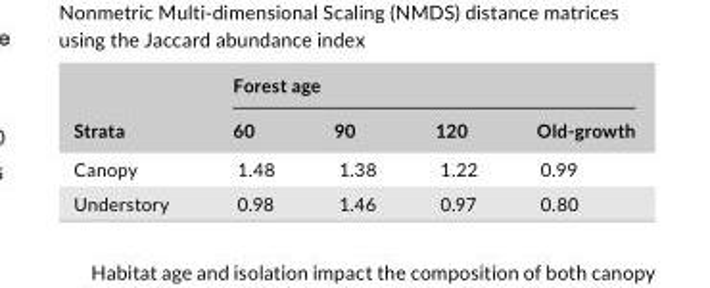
<table><thead><tr><td rowspan="2">Strata</td><td colspan="4">Forest age</td></tr><tr><td>60</td><td>90</td><td>120</td><td>Old- growth</td></tr></thead><tbody><tr><td>Canopy</td><td>1.48</td><td>1.38</td><td>1.22</td><td>0.99</td></tr><tr><td>Understory</td><td>0.98</td><td>1.46</td><td>0.97</td><td>0.80</td></tr></tbody></table>